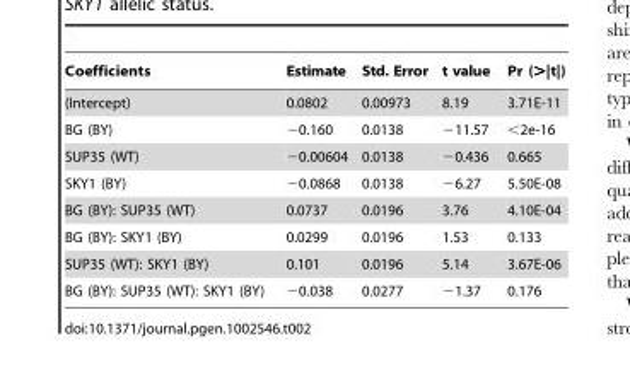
<table><thead><tr><td>Coefficients</td><td>Estimate</td><td>Std. Error</td><td>t value</td><td>Pr (&gt;|t|)</td></tr></thead><tbody><tr><td>(Intercept)</td><td>0.0802</td><td>0.00973</td><td>8.19</td><td>3.71E-11</td></tr><tr><td>BG (BY)</td><td>−0.160</td><td>0.0138</td><td>−11.57</td><td>&lt;2e-16</td></tr><tr><td>SUP35 (WT)</td><td>−0.00604</td><td>0.0138</td><td>−0.436</td><td>0.665</td></tr><tr><td>SKY1 (BY)</td><td>−0.0868</td><td>0.0138</td><td>−6.27</td><td>5.50E-08</td></tr><tr><td>BG (BY): SUP35 (WT)</td><td>0.0737</td><td>0.0196</td><td>3.76</td><td>4.10E-04</td></tr><tr><td>BG (BY): SKY1 (BY)</td><td>0.0299</td><td>0.0196</td><td>1.53</td><td>0.133</td></tr><tr><td>SUP35 (WT): SKY1 (BY)</td><td>0.101</td><td>0.0196</td><td>5.14</td><td>3.67E-06</td></tr><tr><td>BG (BY): SUP35 (WT): SKY1 (BY)</td><td>−0.038</td><td>0.0277</td><td>−1.37</td><td>0.176</td></tr></tbody></table>